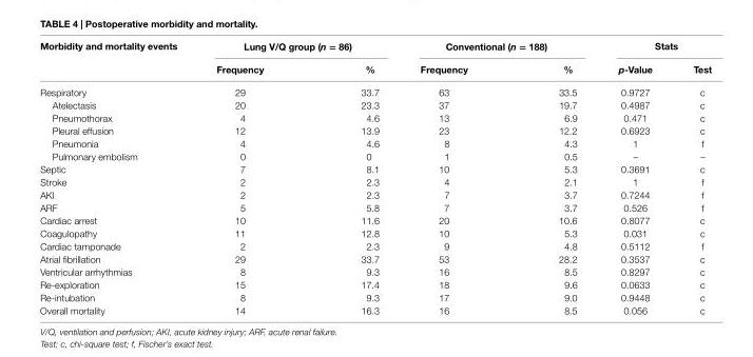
<table><thead><tr><td rowspan="2">Morbidity and mortality events</td><td colspan="2">lung V/Q group (n = 86)</td><td colspan="2">conventional (n = 188)</td><td colspan="2">stats</td></tr><tr><td>Frequency</td><td>%</td><td>Frequency</td><td>%</td><td>p-Value</td><td>Test</td></tr></thead><tbody><tr><td>Respiratory</td><td>29</td><td>33.7</td><td>63</td><td>33.5</td><td>0.9727</td><td>c</td></tr><tr><td>Atelectasis</td><td>20</td><td>23.3</td><td>37</td><td>19.7</td><td>0.4987</td><td>c</td></tr><tr><td>Pneumothorax</td><td>4</td><td>4.6</td><td>13</td><td>6.9</td><td>0.471</td><td>c</td></tr><tr><td>Pleural effusion</td><td>12</td><td>13.9</td><td>23</td><td>12.2</td><td>0.6923</td><td>c</td></tr><tr><td>Pneumonia</td><td>4</td><td>4.6</td><td>8</td><td>4.3</td><td>1</td><td>f</td></tr><tr><td>Pulmonary embolism</td><td>0</td><td>0</td><td>1</td><td>0.5</td><td>–</td><td>–</td></tr><tr><td>Septic</td><td>7</td><td>8.1</td><td>10</td><td>5.3</td><td>0.3691</td><td>c</td></tr><tr><td>Stroke</td><td>2</td><td>2.3</td><td>4</td><td>2.1</td><td>1</td><td>f</td></tr><tr><td>AKI</td><td>2</td><td>2.3</td><td>7</td><td>3.7</td><td>0.7244</td><td>f</td></tr><tr><td>ARF</td><td>5</td><td>5.8</td><td>7</td><td>3.7</td><td>0.526</td><td>f</td></tr><tr><td>Cardiac arrest</td><td>10</td><td>11.6</td><td>20</td><td>10.6</td><td>0.8077</td><td>c</td></tr><tr><td>Coagulopathy</td><td>11</td><td>12.8</td><td>10</td><td>5.3</td><td>0.031</td><td>c</td></tr><tr><td>Cardiac tamponade</td><td>2</td><td>2.3</td><td>9</td><td>4.8</td><td>0.5112</td><td>f</td></tr><tr><td>Atrial fibrillation</td><td>29</td><td>33.7</td><td>53</td><td>28.2</td><td>0.3537</td><td>c</td></tr><tr><td>Ventricular arrhythmias</td><td>8</td><td>9.3</td><td>16</td><td>8.5</td><td>0.8297</td><td>c</td></tr><tr><td>Re-exploration</td><td>15</td><td>17.4</td><td>18</td><td>9.6</td><td>0.0633</td><td>c</td></tr><tr><td>Re-intubation</td><td>8</td><td>9.3</td><td>17</td><td>9.0</td><td>0.9448</td><td>c</td></tr><tr><td>Overall mortality</td><td>14</td><td>16.3</td><td>16</td><td>8.5</td><td>0.056</td><td>c</td></tr></tbody></table>